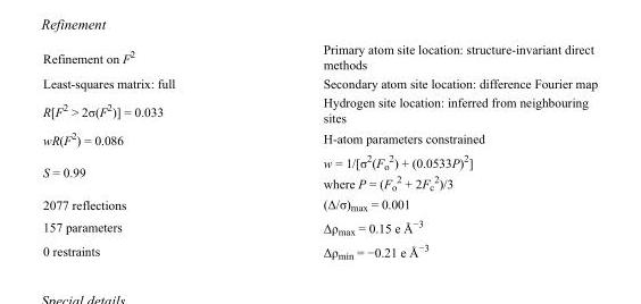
<table><tbody><tr><td>Refinement on F<sup>2</sup></td><td>Primary atom site location: structure-invariant direct methods</td></tr><tr><td>Least-squares matrix: full</td><td>Secondary atom site location: difference Fourier map</td></tr><tr><td>R[F<sup>2</sup> &gt; 2σ(F<sup>2</sup>)] = 0.033</td><td>Hydrogen site location: inferred from neighbouring sites</td></tr><tr><td>wR(F<sup>2</sup>) = 0.086</td><td>H-atom parameters constrained</td></tr><tr><td>S = 0.99</td><td>w = 1/[σ<sup>2</sup>(F<sub>o</sub> <sup>2</sup>) + (0.0533P)<sup>2</sup>] where P = (F<sub>o</sub> <sup>2</sup> + 2F<sub>c</sub> <sup>2</sup>)/3</td></tr><tr><td>2077 reflections</td><td>(Δ/σ)<sub>max</sub> = 0.001</td></tr><tr><td>157 parameters</td><td>Δρ<sub>max</sub> = 0.15 e Å<sup>−3</sup></td></tr><tr><td>0 restraints</td><td>Δρ<sub>min</sub> = −0.21 e Å<sup>−3</sup></td></tr></tbody></table>